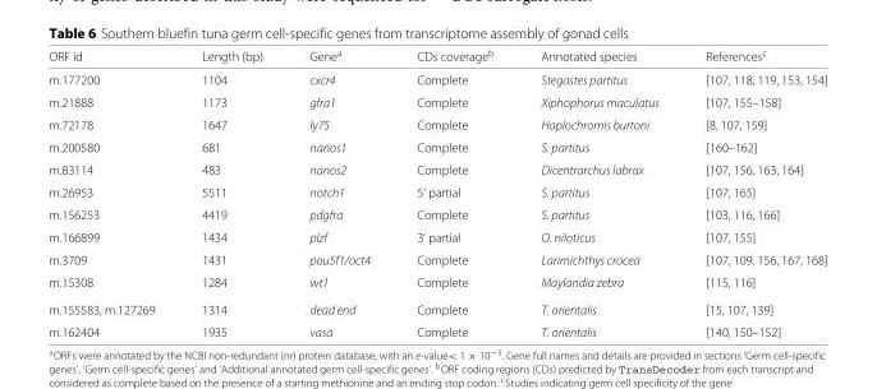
<table><thead><tr><td>ORF id</td><td>Length (bp)</td><td>Gene<sup>a</sup></td><td>CDs coverage<sup>b</sup></td><td>Annotated species</td><td>References<sup>c</sup></td></tr></thead><tbody><tr><td>m.177200</td><td>1104</td><td>cxcr4</td><td>Complete</td><td>Stegastes partitus</td><td>[107, 118, 119, 153, 154]</td></tr><tr><td>m.21888</td><td>1173</td><td>gfra1</td><td>Complete</td><td>Xiphophorus maculatus</td><td>[107, 155–158]</td></tr><tr><td>m.72178</td><td>1647</td><td>ly75</td><td>Complete</td><td>Haplochromis burtoni</td><td>[8, 107, 159]</td></tr><tr><td>m.200580</td><td>681</td><td>nanos1</td><td>Complete</td><td>S. partitus</td><td>[160–162]</td></tr><tr><td>m.83114</td><td>483</td><td>nanos2</td><td>Complete</td><td>Dicentrarchus labrax</td><td>[107, 156, 163, 164]</td></tr><tr><td>m.26953</td><td>5511</td><td>notch1</td><td>5’ partial</td><td>S. partitus</td><td>[107, 165]</td></tr><tr><td>m.156253</td><td>4419</td><td>pdgfra</td><td>Complete</td><td>S. partitus</td><td>[103, 116, 166]</td></tr><tr><td>m.166899</td><td>1434</td><td>plzf</td><td>3’ partial</td><td>O. niloticus</td><td>[107, 155]</td></tr><tr><td>m.3709</td><td>1431</td><td>pou5f1/oct4</td><td>Complete</td><td>Larimichthys crocea</td><td>[107, 109, 156, 167, 168]</td></tr><tr><td>m.15308</td><td>1284</td><td>wt1</td><td>Complete</td><td>Maylandia zebra</td><td>[115, 116]</td></tr><tr><td>m.155583, m.127269</td><td>1314</td><td>dead end</td><td>Complete</td><td>T. orientalis</td><td>[15, 107, 139]</td></tr><tr><td>m.162404</td><td>1935</td><td>vasa</td><td>Complete</td><td>T. orientalis</td><td>[140, 150–152]</td></tr></tbody></table>